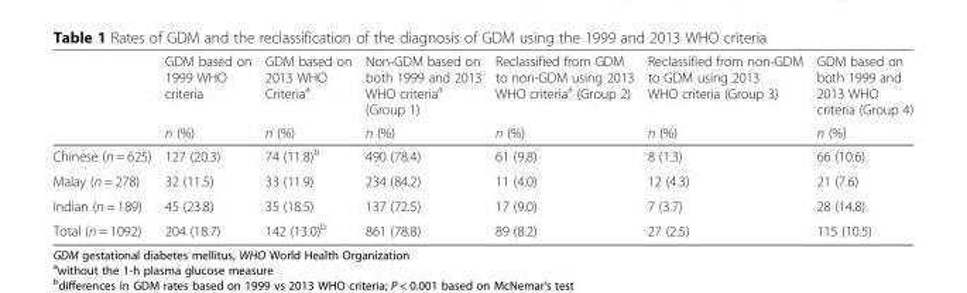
<table><thead><tr><td rowspan="2"></td><td rowspan="2">GDM based on 1999 WHO criteria n (%)</td><td rowspan="2">GDM based on 2013 WHO Criteria<sup>a</sup> n (%)</td><td rowspan="2">Non-GDM based on both 1999 and 2013 WHO criteria<sup>a</sup> (Group 1) n (%)</td><td rowspan="2">Reclassified from GDM to non-GDM using 2013 WHO criteria<sup>a</sup> (Group 2) n (%)</td><td rowspan="2">Reclassified from non-GDM to GDM using 2013 WHO criteria (Group 3) n (%)</td><td rowspan="2">GDM based on both 1999 and 2013 WHO criteria (Group 4) n (%)</td></tr><tr></tr></thead><tbody><tr><td>Chinese (n = 625)</td><td>127 (20.3)</td><td>74 (11.8)<sup>b</sup></td><td>490 (78.4)</td><td>61 (9.8)</td><td>8 (1.3)</td><td>66 (10.6)</td></tr><tr><td>Malay (n = 278)</td><td>32 (11.5)</td><td>33 (11.9)</td><td>234 (84.2)</td><td>11 (4.0)</td><td>12 (4.3)</td><td>21 (7.6)</td></tr><tr><td>Indian (n = 189)</td><td>45 (23.8)</td><td>35 (18.5)</td><td>137 (72.5)</td><td>17 (9.0)</td><td>7 (3.7)</td><td>28 (14.8)</td></tr><tr><td>Total (n = 1092)</td><td>204 (18.7)</td><td>142 (13.0)<sup>b</sup></td><td>861 (78.8)</td><td>89 (8.2)</td><td>27 (2.5)</td><td>115 (10.5)</td></tr></tbody></table>